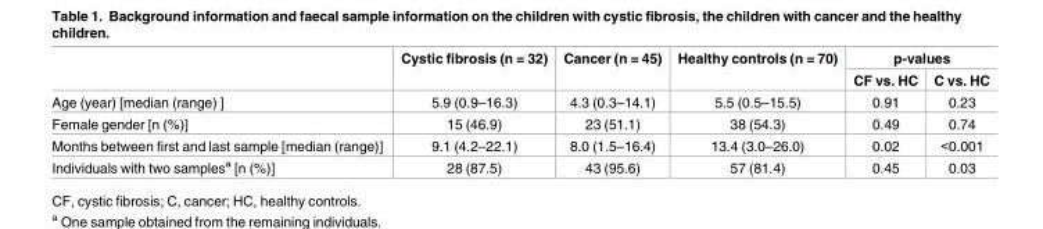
<table><thead><tr><td rowspan="2"></td><td rowspan="2">Cystic fibrosis (n = 32)</td><td rowspan="2">Cancer (n = 45)</td><td rowspan="2">Healthy controls (n = 70)</td><td colspan="2">p-values</td></tr><tr><td>CF vs. HC</td><td>C vs. HC</td></tr></thead><tbody><tr><td>Age (year) [median (range) ]</td><td>5.9 (0.9–16.3)</td><td>4.3 (0.3–14.1)</td><td>5.5 (0.5–15.5)</td><td>0.91</td><td>0.23</td></tr><tr><td>Female gender [n (%)]</td><td>15 (46.9)</td><td>23 (51.1)</td><td>38 (54.3)</td><td>0.49</td><td>0.74</td></tr><tr><td>Months between first and last sample [median (range)]</td><td>9.1 (4.2–22.1)</td><td>8.0 (1.5–16.4)</td><td>13.4 (3.0–26.0)</td><td>0.02</td><td>&lt;0.001</td></tr><tr><td>Individuals with two samples<sup>a</sup> [n (%)]</td><td>28 (87.5)</td><td>43 (95.6)</td><td>57 (81.4)</td><td>0.45</td><td>0.03</td></tr></tbody></table>